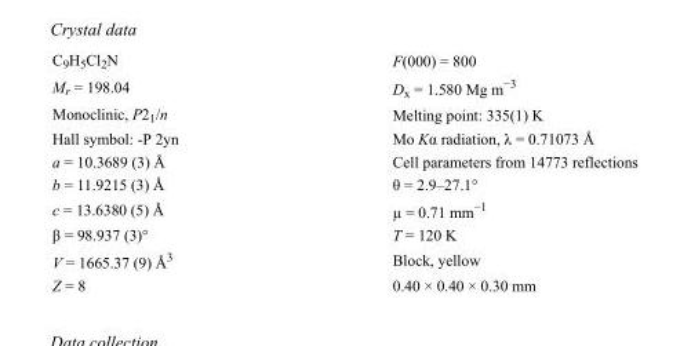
<table><tbody><tr><td>C<sub>9</sub>H<sub>5</sub>Cl<sub>2</sub>N</td><td>F(000) = 800</td></tr><tr><td>M<sub>r</sub> = 198.04</td><td>D<sub>x</sub> = 1.580 Mg m<sup>−3</sup></td></tr><tr><td>Monoclinic, P2<sub>1</sub>/n</td><td>Melting point: 335(1) K</td></tr><tr><td>Hall symbol: -P 2yn</td><td>Mo Kα radiation, λ = 0.71073 Å</td></tr><tr><td>a = 10.3689 (3) Å</td><td>Cell parameters from 14773 reflections</td></tr><tr><td>b = 11.9215 (3) Å</td><td>θ = 2.9–27.1°</td></tr><tr><td>c = 13.6380 (5) Å</td><td>µ = 0.71 mm<sup>−1</sup></td></tr><tr><td>β = 98.937 (3)°</td><td>T = 120 K</td></tr><tr><td>V = 1665.37 (9) Å<sup>3</sup></td><td>Block, yellow</td></tr><tr><td>Z = 8</td><td>0.40 × 0.40 × 0.30 mm</td></tr></tbody></table>